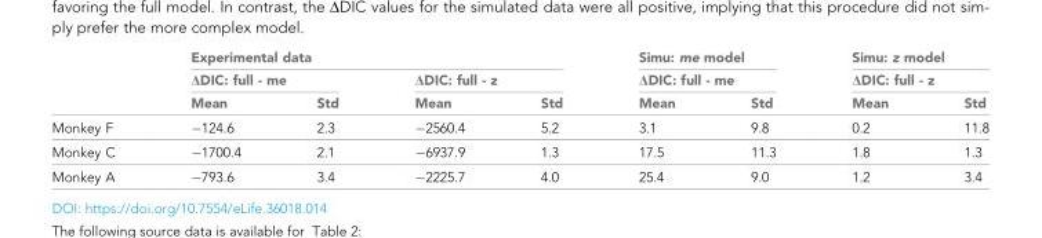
<table><thead><tr><td rowspan="3"></td><td colspan="4">Experimental data</td><td rowspan="2" colspan="2">Simu: me model ∆DIC: full - me</td><td rowspan="2" colspan="2">Simu: z model ∆DIC: full - z</td></tr><tr><td colspan="2">∆DIC: full - me</td><td colspan="2">∆DIC: full - z</td></tr><tr><td>Mean</td><td>Std</td><td>Mean</td><td>Std</td><td>Mean</td><td>Std</td><td>Mean</td><td>Std</td></tr></thead><tbody><tr><td>Monkey F</td><td>−124.6</td><td>2.3</td><td>−2560.4</td><td>5.2</td><td>3.1</td><td>9.8</td><td>0.2</td><td>11.8</td></tr><tr><td>Monkey C</td><td>−1700.4</td><td>2.1</td><td>−6937.9</td><td>1.3</td><td>17.5</td><td>11.3</td><td>1.8</td><td>1.3</td></tr><tr><td>Monkey A</td><td>−793.6</td><td>3.4</td><td>−2225.7</td><td>4.0</td><td>25.4</td><td>9.0</td><td>1.2</td><td>3.4</td></tr></tbody></table>